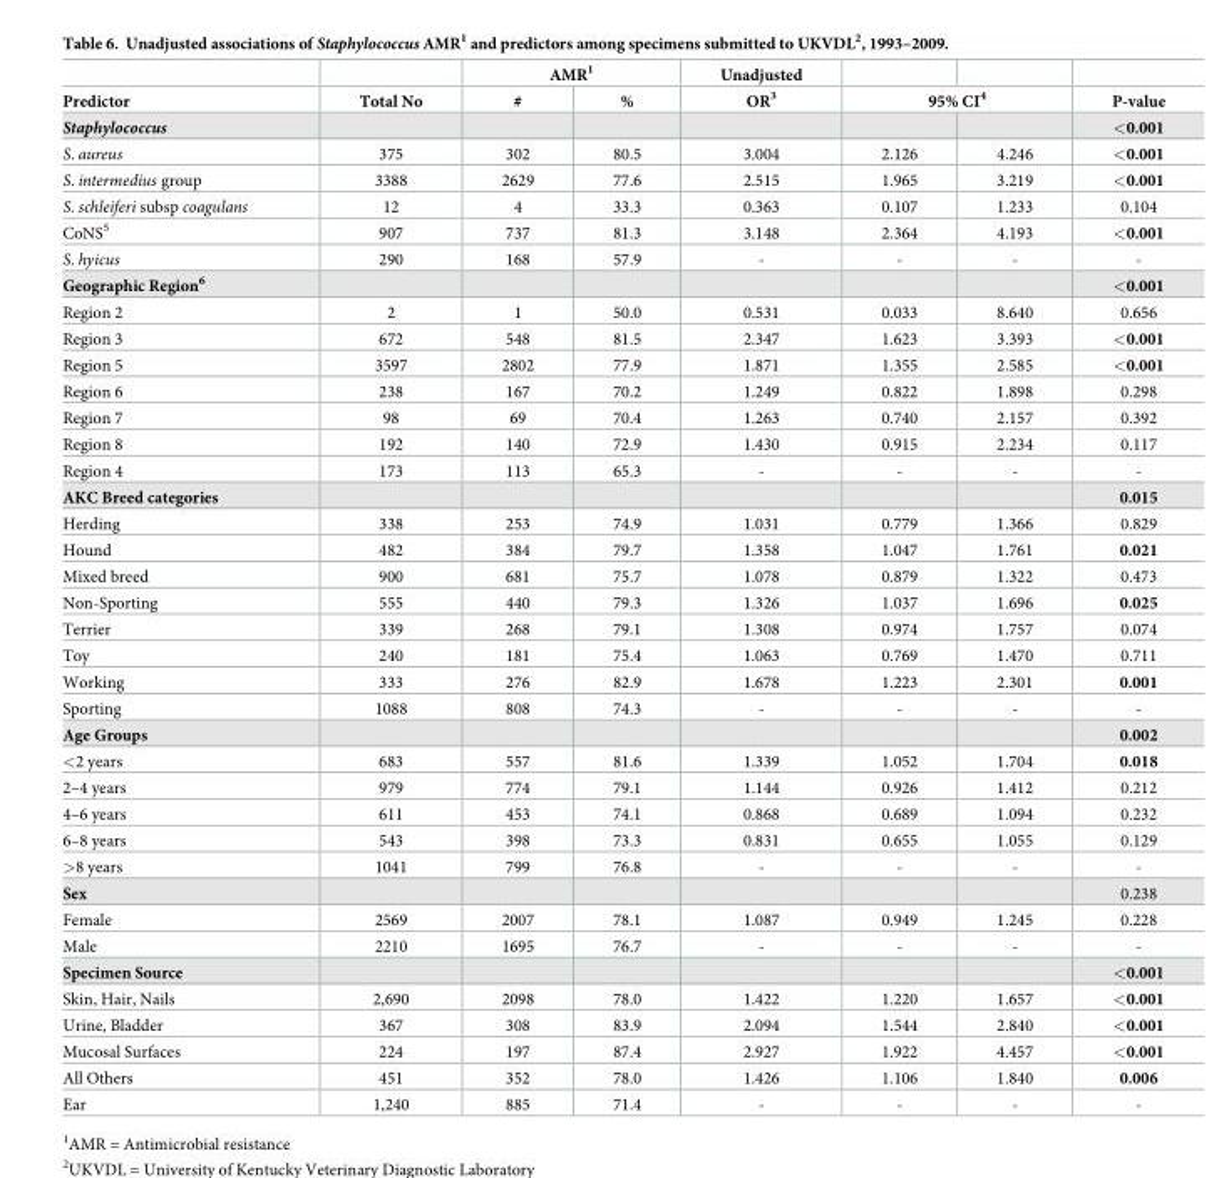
<table><thead><tr><td rowspan="2">Predictor</td><td rowspan="2">Total No</td><td colspan="2">AMR<sup>1</sup></td><td rowspan="2">Unadjusted OR<sup>3</sup></td><td></td><td></td><td rowspan="2">P-value</td></tr><tr><td>#</td><td>%</td><td colspan="2">95% CI<sup>4</sup></td></tr></thead><tbody><tr><td>Staphylococcus</td><td></td><td></td><td></td><td></td><td></td><td></td><td>&lt;0.001</td></tr><tr><td>S. aureus</td><td>375</td><td>302</td><td>80.5</td><td>3.004</td><td>2.126</td><td>4.246</td><td>&lt;0.001</td></tr><tr><td>S. intermedius group</td><td>3388</td><td>2629</td><td>77.6</td><td>2.515</td><td>1.965</td><td>3.219</td><td>&lt;0.001</td></tr><tr><td>S. schleiferi subsp coagulans</td><td>12</td><td>4</td><td>33.3</td><td>0.363</td><td>0.107</td><td>1.233</td><td>0.104</td></tr><tr><td>CoNS<sup>5</sup></td><td>907</td><td>737</td><td>81.3</td><td>3.148</td><td>2.364</td><td>4.193</td><td>&lt;0.001</td></tr><tr><td>S. hyicus</td><td>290</td><td>168</td><td>57.9</td><td>-</td><td>-</td><td>-</td><td>-</td></tr><tr><td>Geographic Region<sup>6</sup></td><td></td><td></td><td></td><td></td><td></td><td></td><td>&lt;0.001</td></tr><tr><td>Region 2</td><td>2</td><td>1</td><td>50.0</td><td>0.531</td><td>0.033</td><td>8.640</td><td>0.656</td></tr><tr><td>Region 3</td><td>672</td><td>548</td><td>81.5</td><td>2.347</td><td>1.623</td><td>3.393</td><td>&lt;0.001</td></tr><tr><td>Region 5</td><td>3597</td><td>2802</td><td>77.9</td><td>1.871</td><td>1.355</td><td>2.585</td><td>&lt;0.001</td></tr><tr><td>Region 6</td><td>238</td><td>167</td><td>70.2</td><td>1.249</td><td>0.822</td><td>1.898</td><td>0.298</td></tr><tr><td>Region 7</td><td>98</td><td>69</td><td>70.4</td><td>1.263</td><td>0.740</td><td>2.157</td><td>0.392</td></tr><tr><td>Region 8</td><td>192</td><td>140</td><td>72.9</td><td>1.430</td><td>0.915</td><td>2.234</td><td>0.117</td></tr><tr><td>Region 4</td><td>173</td><td>113</td><td>65.3</td><td>-</td><td>-</td><td>-</td><td>-</td></tr><tr><td>AKC Breed categories</td><td></td><td></td><td></td><td></td><td></td><td></td><td>0.015</td></tr><tr><td>Herding</td><td>338</td><td>253</td><td>74.9</td><td>1.031</td><td>0.779</td><td>1.366</td><td>0.829</td></tr><tr><td>Hound</td><td>482</td><td>384</td><td>79.7</td><td>1.358</td><td>1.047</td><td>1.761</td><td>0.021</td></tr><tr><td>Mixed breed</td><td>900</td><td>681</td><td>75.7</td><td>1.078</td><td>0.879</td><td>1.322</td><td>0.473</td></tr><tr><td>Non-Sporting</td><td>555</td><td>440</td><td>79.3</td><td>1.326</td><td>1.037</td><td>1.696</td><td>0.025</td></tr><tr><td>Terrier</td><td>339</td><td>268</td><td>79.1</td><td>1.308</td><td>0.974</td><td>1.757</td><td>0.074</td></tr><tr><td>Toy</td><td>240</td><td>181</td><td>75.4</td><td>1.063</td><td>0.769</td><td>1.470</td><td>0.711</td></tr><tr><td>Working</td><td>333</td><td>276</td><td>82.9</td><td>1.678</td><td>1.223</td><td>2.301</td><td>0.001</td></tr><tr><td>Sporting</td><td>1088</td><td>808</td><td>74.3</td><td>-</td><td>-</td><td>-</td><td>-</td></tr><tr><td>Age Groups</td><td></td><td></td><td></td><td></td><td></td><td></td><td>0.002</td></tr><tr><td>&lt;2 years</td><td>683</td><td>557</td><td>81.6</td><td>1.339</td><td>1.052</td><td>1.704</td><td>0.018</td></tr><tr><td>2–4 years</td><td>979</td><td>774</td><td>79.1</td><td>1.144</td><td>0.926</td><td>1.412</td><td>0.212</td></tr><tr><td>4–6 years</td><td>611</td><td>453</td><td>74.1</td><td>0.868</td><td>0.689</td><td>1.094</td><td>0.232</td></tr><tr><td>6–8 years</td><td>543</td><td>398</td><td>73.3</td><td>0.831</td><td>0.655</td><td>1.055</td><td>0.129</td></tr><tr><td>&gt;8 years</td><td>1041</td><td>799</td><td>76.8</td><td>-</td><td>-</td><td>-</td><td>-</td></tr><tr><td>Sex</td><td></td><td></td><td></td><td></td><td></td><td></td><td>0.238</td></tr><tr><td>Female</td><td>2569</td><td>2007</td><td>78.1</td><td>1.087</td><td>0.949</td><td>1.245</td><td>0.228</td></tr><tr><td>Male</td><td>2210</td><td>1695</td><td>76.7</td><td>-</td><td>-</td><td>-</td><td>-</td></tr><tr><td>Specimen Source</td><td></td><td></td><td></td><td></td><td></td><td></td><td>&lt;0.001</td></tr><tr><td>Skin, Hair, Nails</td><td>2,690</td><td>2098</td><td>78.0</td><td>1.422</td><td>1.220</td><td>1.657</td><td>&lt;0.001</td></tr><tr><td>Urine, Bladder</td><td>367</td><td>308</td><td>83.9</td><td>2.094</td><td>1.544</td><td>2.840</td><td>&lt;0.001</td></tr><tr><td>Mucosal Surfaces</td><td>224</td><td>197</td><td>87.4</td><td>2.927</td><td>1.922</td><td>4.457</td><td>&lt;0.001</td></tr><tr><td>All Others</td><td>451</td><td>352</td><td>78.0</td><td>1.426</td><td>1.106</td><td>1.840</td><td>0.006</td></tr><tr><td>Ear</td><td>1,240</td><td>885</td><td>71.4</td><td>-</td><td>-</td><td>-</td><td>-</td></tr></tbody></table>